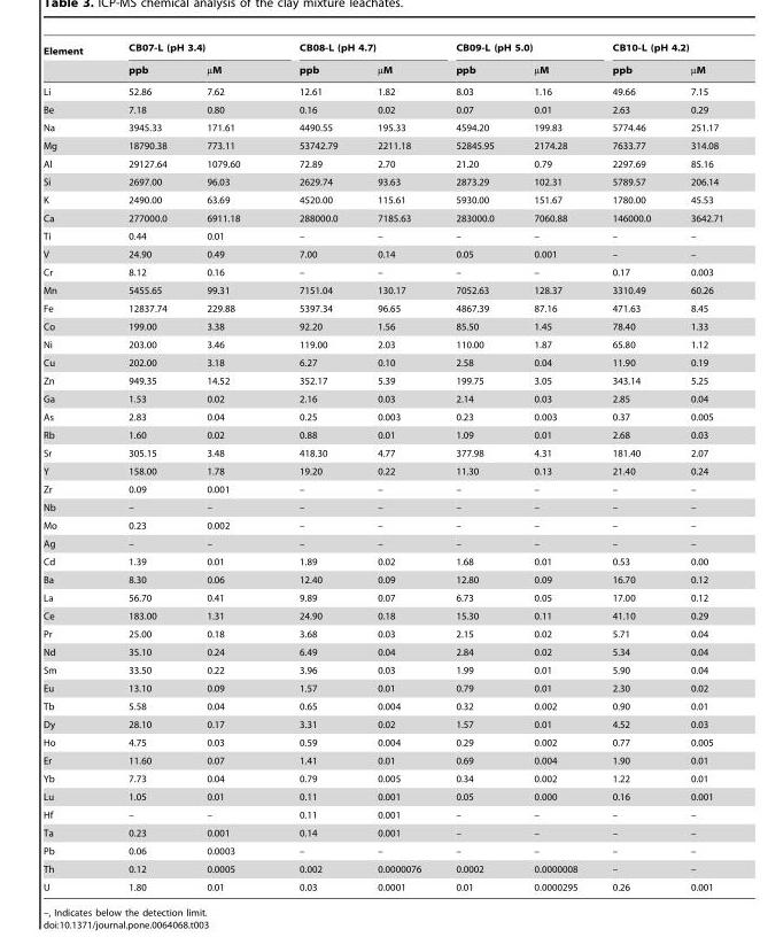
<table><thead><tr><td rowspan="2">Element</td><td colspan="2">CB07-L (pH 3.4)</td><td colspan="2">CB08-L (pH 4.7)</td><td colspan="2">CB09-L (pH 5.0)</td><td colspan="2">CB10-L (pH 4.2)</td></tr><tr><td>ppb</td><td>µM</td><td>ppb</td><td>µM</td><td>ppb</td><td>µM</td><td>ppb</td><td>µM</td></tr></thead><tbody><tr><td>Li</td><td>52.86</td><td>7.62</td><td>12.61</td><td>1.82</td><td>8.03</td><td>1.16</td><td>49.66</td><td>7.15</td></tr><tr><td>Be</td><td>7.18</td><td>0.80</td><td>0.16</td><td>0.02</td><td>0.07</td><td>0.01</td><td>2.63</td><td>0.29</td></tr><tr><td>Na</td><td>3945.33</td><td>171.61</td><td>4490.55</td><td>195.33</td><td>4594.20</td><td>199.83</td><td>5774.46</td><td>251.17</td></tr><tr><td>Mg</td><td>18790.38</td><td>773.11</td><td>53742.79</td><td>2211.18</td><td>52845.95</td><td>2174.28</td><td>7633.77</td><td>314.08</td></tr><tr><td>Al</td><td>29127.64</td><td>1079.60</td><td>72.89</td><td>2.70</td><td>21.20</td><td>0.79</td><td>2297.69</td><td>85.16</td></tr><tr><td>Si</td><td>2697.00</td><td>96.03</td><td>2629.74</td><td>93.63</td><td>2873.29</td><td>102.31</td><td>5789.57</td><td>206.14</td></tr><tr><td>K</td><td>2490.00</td><td>63.69</td><td>4520.00</td><td>115.61</td><td>5930.00</td><td>151.67</td><td>1780.00</td><td>45.53</td></tr><tr><td>Ca</td><td>277000.0</td><td>6911.18</td><td>288000.0</td><td>7185.63</td><td>283000.0</td><td>7060.88</td><td>146000.0</td><td>3642.71</td></tr><tr><td>Ti</td><td>0.44</td><td>0.01</td><td>–</td><td>–</td><td>–</td><td>–</td><td>–</td><td>–</td></tr><tr><td>V</td><td>24.90</td><td>0.49</td><td>7.00</td><td>0.14</td><td>0.05</td><td>0.001</td><td>–</td><td>–</td></tr><tr><td>Cr</td><td>8.12</td><td>0.16</td><td>–</td><td>–</td><td>–</td><td>–</td><td>0.17</td><td>0.003</td></tr><tr><td>Mn</td><td>5455.65</td><td>99.31</td><td>7151.04</td><td>130.17</td><td>7052.63</td><td>128.37</td><td>3310.49</td><td>60.26</td></tr><tr><td>Fe</td><td>12837.74</td><td>229.88</td><td>5397.34</td><td>96.65</td><td>4867.39</td><td>87.16</td><td>471.63</td><td>8.45</td></tr><tr><td>Co</td><td>199.00</td><td>3.38</td><td>92.20</td><td>1.56</td><td>85.50</td><td>1.45</td><td>78.40</td><td>1.33</td></tr><tr><td>Ni</td><td>203.00</td><td>3.46</td><td>119.00</td><td>2.03</td><td>110.00</td><td>1.87</td><td>65.80</td><td>1.12</td></tr><tr><td>Cu</td><td>202.00</td><td>3.18</td><td>6.27</td><td>0.10</td><td>2.58</td><td>0.04</td><td>11.90</td><td>0.19</td></tr><tr><td>Zn</td><td>949.35</td><td>14.52</td><td>352.17</td><td>5.39</td><td>199.75</td><td>3.05</td><td>343.14</td><td>5.25</td></tr><tr><td>Ga</td><td>1.53</td><td>0.02</td><td>2.16</td><td>0.03</td><td>2.14</td><td>0.03</td><td>2.85</td><td>0.04</td></tr><tr><td>As</td><td>2.83</td><td>0.04</td><td>0.25</td><td>0.003</td><td>0.23</td><td>0.003</td><td>0.37</td><td>0.005</td></tr><tr><td>Rb</td><td>1.60</td><td>0.02</td><td>0.88</td><td>0.01</td><td>1.09</td><td>0.01</td><td>2.68</td><td>0.03</td></tr><tr><td>Sr</td><td>305.15</td><td>3.48</td><td>418.30</td><td>4.77</td><td>377.98</td><td>4.31</td><td>181.40</td><td>2.07</td></tr><tr><td>Y</td><td>158.00</td><td>1.78</td><td>19.20</td><td>0.22</td><td>11.30</td><td>0.13</td><td>21.40</td><td>0.24</td></tr><tr><td>Zr</td><td>0.09</td><td>0.001</td><td>–</td><td>–</td><td>–</td><td>–</td><td>–</td><td>–</td></tr><tr><td>Nb</td><td>–</td><td>–</td><td>–</td><td>–</td><td>–</td><td>–</td><td>–</td><td>–</td></tr><tr><td>Mo</td><td>0.23</td><td>0.002</td><td>–</td><td>–</td><td>–</td><td>–</td><td>–</td><td>–</td></tr><tr><td>Ag</td><td>–</td><td>–</td><td>–</td><td>–</td><td>–</td><td>–</td><td>–</td><td>–</td></tr><tr><td>Cd</td><td>1.39</td><td>0.01</td><td>1.89</td><td>0.02</td><td>1.68</td><td>0.01</td><td>0.53</td><td>0.00</td></tr><tr><td>Ba</td><td>8.30</td><td>0.06</td><td>12.40</td><td>0.09</td><td>12.80</td><td>0.09</td><td>16.70</td><td>0.12</td></tr><tr><td>La</td><td>56.70</td><td>0.41</td><td>9.89</td><td>0.07</td><td>6.73</td><td>0.05</td><td>17.00</td><td>0.12</td></tr><tr><td>Ce</td><td>183.00</td><td>1.31</td><td>24.90</td><td>0.18</td><td>15.30</td><td>0.11</td><td>41.10</td><td>0.29</td></tr><tr><td>Pr</td><td>25.00</td><td>0.18</td><td>3.68</td><td>0.03</td><td>2.15</td><td>0.02</td><td>5.71</td><td>0.04</td></tr><tr><td>Nd</td><td>35.10</td><td>0.24</td><td>6.49</td><td>0.04</td><td>2.84</td><td>0.02</td><td>5.34</td><td>0.04</td></tr><tr><td>Sm</td><td>33.50</td><td>0.22</td><td>3.96</td><td>0.03</td><td>1.99</td><td>0.01</td><td>5.90</td><td>0.04</td></tr><tr><td>Eu</td><td>13.10</td><td>0.09</td><td>1.57</td><td>0.01</td><td>0.79</td><td>0.01</td><td>2.30</td><td>0.02</td></tr><tr><td>Tb</td><td>5.58</td><td>0.04</td><td>0.65</td><td>0.004</td><td>0.32</td><td>0.002</td><td>0.90</td><td>0.01</td></tr><tr><td>Dy</td><td>28.10</td><td>0.17</td><td>3.31</td><td>0.02</td><td>1.57</td><td>0.01</td><td>4.52</td><td>0.03</td></tr><tr><td>Ho</td><td>4.75</td><td>0.03</td><td>0.59</td><td>0.004</td><td>0.29</td><td>0.002</td><td>0.77</td><td>0.005</td></tr><tr><td>Er</td><td>11.60</td><td>0.07</td><td>1.41</td><td>0.01</td><td>0.69</td><td>0.004</td><td>1.90</td><td>0.01</td></tr><tr><td>Yb</td><td>7.73</td><td>0.04</td><td>0.79</td><td>0.005</td><td>0.34</td><td>0.002</td><td>1.22</td><td>0.01</td></tr><tr><td>Lu</td><td>1.05</td><td>0.01</td><td>0.11</td><td>0.001</td><td>0.05</td><td>0.000</td><td>0.16</td><td>0.001</td></tr><tr><td>Hf</td><td>–</td><td>–</td><td>0.11</td><td>0.001</td><td>–</td><td>–</td><td>–</td><td>–</td></tr><tr><td>Ta</td><td>0.23</td><td>0.001</td><td>0.14</td><td>0.001</td><td>–</td><td>–</td><td>–</td><td>–</td></tr><tr><td>Pb</td><td>0.06</td><td>0.0003</td><td>–</td><td>–</td><td>–</td><td>–</td><td>–</td><td>–</td></tr><tr><td>Th</td><td>0.12</td><td>0.0005</td><td>0.002</td><td>0.0000076</td><td>0.0002</td><td>0.0000008</td><td>–</td><td>–</td></tr><tr><td>U</td><td>1.80</td><td>0.01</td><td>0.03</td><td>0.0001</td><td>0.01</td><td>0.0000295</td><td>0.26</td><td>0.001</td></tr></tbody></table>